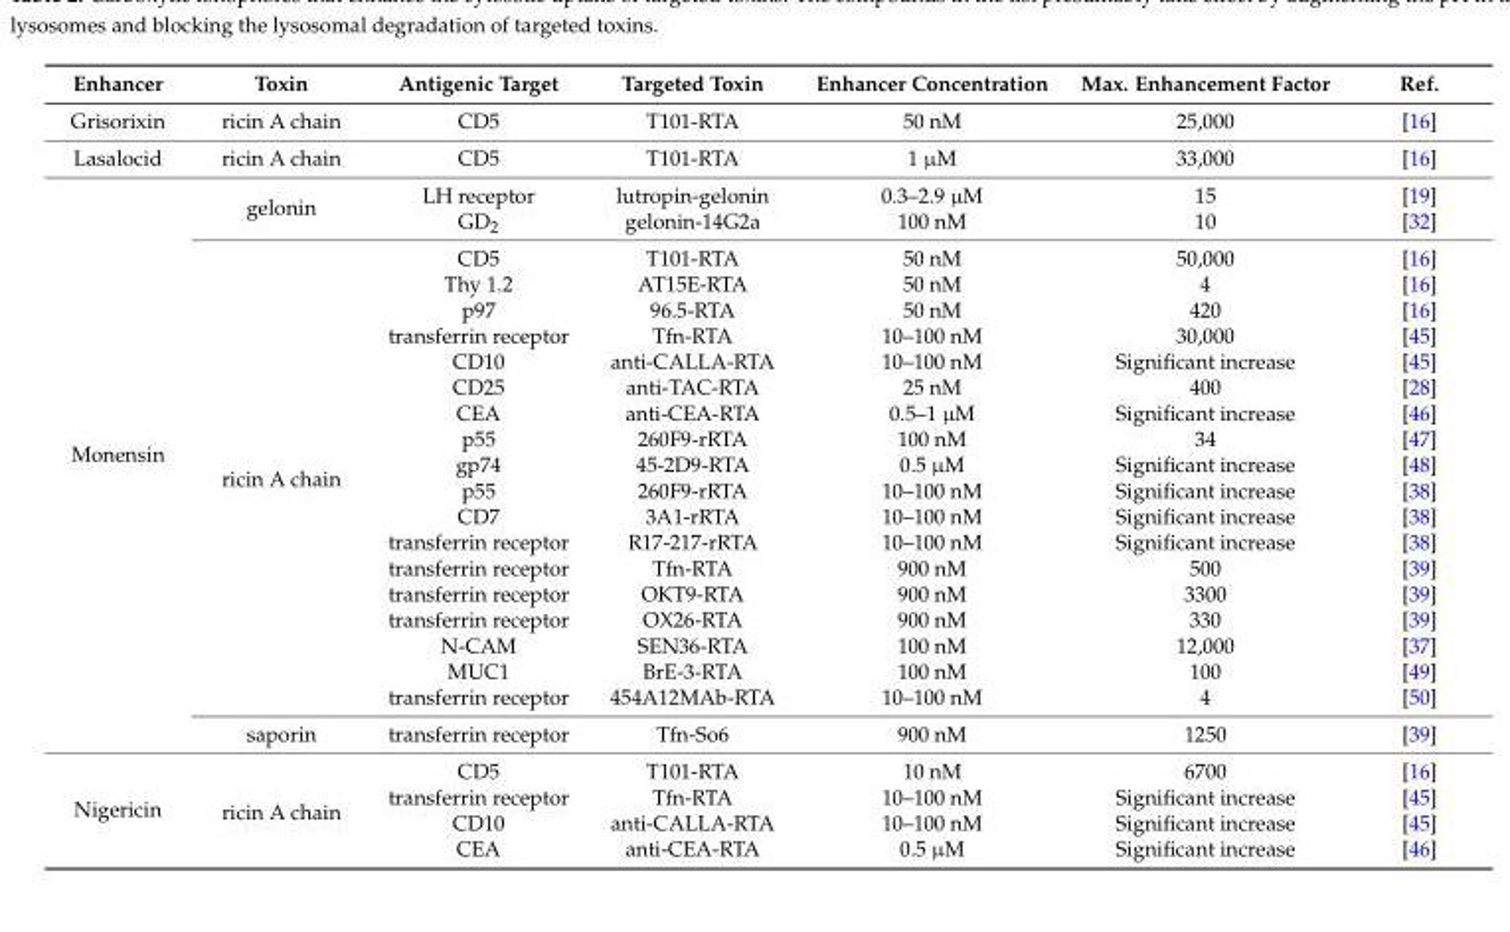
<table><thead><tr><td>Enhancer</td><td>Toxin</td><td>Antigenic Target</td><td>Targeted Toxin</td><td>Enhancer Concentration</td><td>Max. Enhancement Factor</td><td>Ref.</td></tr></thead><tbody><tr><td>Grisorixin</td><td>ricin A chain</td><td>CD5</td><td>T101-RTA</td><td>50 nM</td><td>25,000</td><td>[16]</td></tr><tr><td>Lasalocid</td><td>ricin A chain</td><td>CD5</td><td>T101-RTA</td><td>1 µM</td><td>33,000</td><td>[16]</td></tr><tr><td rowspan="21">Monensin</td><td rowspan="2">gelonin</td><td>LH receptor</td><td>lutropin-gelonin</td><td>0.3–2.9 µM</td><td>15</td><td>[19]</td></tr><tr><td>GD<sub>2</sub></td><td>gelonin-14G2a</td><td>100 nM</td><td>10</td><td>[32]</td></tr><tr><td rowspan="18">ricin A chain</td><td>CD5</td><td>T101-RTA</td><td>50 nM</td><td>50,000</td><td>[16]</td></tr><tr><td>Thy 1.2</td><td>AT15E-RTA</td><td>50 nM</td><td>4</td><td>[16]</td></tr><tr><td>p97</td><td>96.5-RTA</td><td>50 nM</td><td>420</td><td>[16]</td></tr><tr><td>transferrin receptor</td><td>Tfn-RTA</td><td>10–100 nM</td><td>30,000</td><td>[45]</td></tr><tr><td>CD10</td><td>anti-CALLA-RTA</td><td>10–100 nM</td><td>Significant increase</td><td>[45]</td></tr><tr><td>CD25</td><td>anti-TAC-RTA</td><td>25 nM</td><td>400</td><td>[28]</td></tr><tr><td>CEA</td><td>anti-CEA-RTA</td><td>0.5–1 µM</td><td>Significant increase</td><td>[46]</td></tr><tr><td>p55</td><td>260F9-rRTA</td><td>100 nM</td><td>34</td><td>[47]</td></tr><tr><td>gp74</td><td>45-2D9-RTA</td><td>0.5 µM</td><td>Significant increase</td><td>[48]</td></tr><tr><td>p55</td><td>260F9-rRTA</td><td>10–100 nM</td><td>Significant increase</td><td>[38]</td></tr><tr><td>CD7</td><td>3A1-rRTA</td><td>10–100 nM</td><td>Significant increase</td><td>[38]</td></tr><tr><td>transferrin receptor</td><td>R17-217-rRTA</td><td>10–100 nM</td><td>Significant increase</td><td>[38]</td></tr><tr><td>transferrin receptor</td><td>Tfn-RTA</td><td>900 nM</td><td>500</td><td>[39]</td></tr><tr><td>transferrin receptor</td><td>OKT9-RTA</td><td>900 nM</td><td>3300</td><td>[39]</td></tr><tr><td>transferrin receptor</td><td>OX26-RTA</td><td>900 nM</td><td>330</td><td>[39]</td></tr><tr><td>N-CAM</td><td>SEN36-RTA</td><td>100 nM</td><td>12,000</td><td>[37]</td></tr><tr><td>MUC1</td><td>BrE-3-RTA</td><td>100 nM</td><td>100</td><td>[49]</td></tr><tr><td>transferrin receptor</td><td>454A12MAb-RTA</td><td>10–100 nM</td><td>4</td><td>[50]</td></tr><tr><td>saporin</td><td>transferrin receptor</td><td>Tfn-So6</td><td>900 nM</td><td>1250</td><td>[39]</td></tr><tr><td rowspan="4">Nigericin</td><td rowspan="4">ricin A chain</td><td>CD5</td><td>T101-RTA</td><td>10 nM</td><td>6700</td><td>[16]</td></tr><tr><td>transferrin receptor</td><td>Tfn-RTA</td><td>10–100 nM</td><td>Significant increase</td><td>[45]</td></tr><tr><td>CD10</td><td>anti-CALLA-RTA</td><td>10–100 nM</td><td>Significant increase</td><td>[45]</td></tr><tr><td>CEA</td><td>anti-CEA-RTA</td><td>0.5 µM</td><td>Significant increase</td><td>[46]</td></tr></tbody></table>